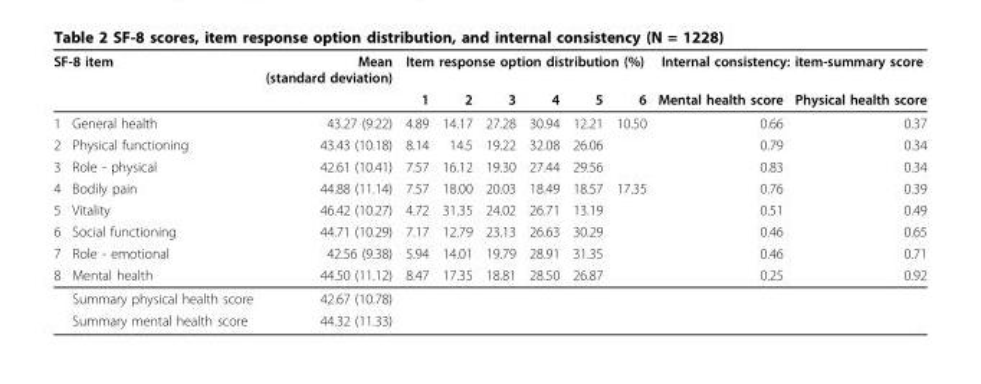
<table><thead><tr><td colspan="2">SF-8 item</td><td rowspan="2">Mean (standard deviation)</td><td colspan="6">Item response option distribution (%)</td><td colspan="2">Internal consistency: item-summary score</td></tr><tr><td></td><td></td><td>1</td><td>2</td><td>3</td><td>4</td><td>5</td><td>6</td><td>Mental health score</td><td>Physical health score</td></tr></thead><tbody><tr><td>1</td><td>General health</td><td>43.27 (9.22)</td><td>4.89</td><td>14.17</td><td>27.28</td><td>30.94</td><td>12.21</td><td>10.50</td><td>0.66</td><td>0.37</td></tr><tr><td>2</td><td>Physical functioning</td><td>43.43 (10.18)</td><td>8.14</td><td>14.5</td><td>19.22</td><td>32.08</td><td>26.06</td><td></td><td>0.79</td><td>0.34</td></tr><tr><td>3</td><td>Role - physical</td><td>42.61 (10.41)</td><td>7.57</td><td>16.12</td><td>19.30</td><td>27.44</td><td>29.56</td><td></td><td>0.83</td><td>0.34</td></tr><tr><td>4</td><td>Bodily pain</td><td>44.88 (11.14)</td><td>7.57</td><td>18.00</td><td>20.03</td><td>18.49</td><td>18.57</td><td>17.35</td><td>0.76</td><td>0.39</td></tr><tr><td>5</td><td>Vitality</td><td>46.42 (10.27)</td><td>4.72</td><td>31.35</td><td>24.02</td><td>26.71</td><td>13.19</td><td></td><td>0.51</td><td>0.49</td></tr><tr><td>6</td><td>Social functioning</td><td>44.71 (10.29)</td><td>7.17</td><td>12.79</td><td>23.13</td><td>26.63</td><td>30.29</td><td></td><td>0.46</td><td>0.65</td></tr><tr><td>7</td><td>Role - emotional</td><td>42.56 (9.38)</td><td>5.94</td><td>14.01</td><td>19.79</td><td>28.91</td><td>31.35</td><td></td><td>0.46</td><td>0.71</td></tr><tr><td rowspan="3">8</td><td>Mental health</td><td>44.50 (11.12)</td><td>8.47</td><td>17.35</td><td>18.81</td><td>28.50</td><td>26.87</td><td></td><td>0.25</td><td>0.92</td></tr><tr><td>Summary physical health score</td><td>42.67 (10.78)</td><td></td><td></td><td></td><td></td><td></td><td></td><td></td><td></td></tr><tr><td>Summary mental health score</td><td>44.32 (11.33)</td><td></td><td></td><td></td><td></td><td></td><td></td><td></td><td></td></tr></tbody></table>